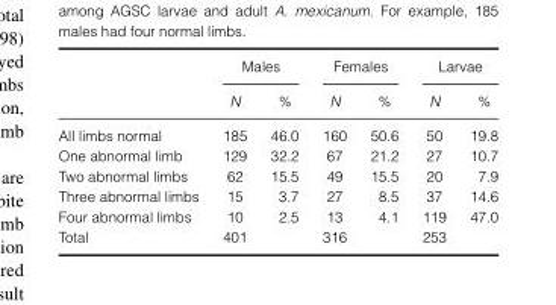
<table><thead><tr><td rowspan="2"></td><td colspan="2">Males</td><td colspan="2">Females</td><td colspan="2">Larvae</td></tr><tr><td>N</td><td>%</td><td>N</td><td>%</td><td>N</td><td>%</td></tr></thead><tbody><tr><td>All limbs normal</td><td>185</td><td>46.0</td><td>160</td><td>50.6</td><td>50</td><td>19.8</td></tr><tr><td>One abnormal limb</td><td>129</td><td>32.2</td><td>67</td><td>21.2</td><td>27</td><td>10.7</td></tr><tr><td>Two abnormal limbs</td><td>62</td><td>15.5</td><td>49</td><td>15.5</td><td>20</td><td>7.9</td></tr><tr><td>Three abnormal limbs</td><td>15</td><td>3.7</td><td>27</td><td>8.5</td><td>37</td><td>14.6</td></tr><tr><td>Four abnormal limbs</td><td>10</td><td>2.5</td><td>13</td><td>4.1</td><td>119</td><td>47.0</td></tr><tr><td>Total</td><td>401</td><td></td><td>316</td><td></td><td>253</td><td></td></tr></tbody></table>